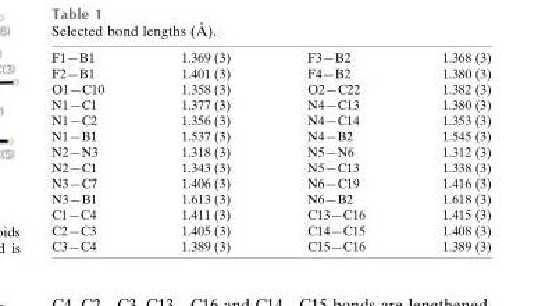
<table><tbody><tr><td>F1—B1</td><td>1.369 (3)</td><td>F3—B2</td><td>1.368 (3)</td></tr><tr><td>F2—B1</td><td>1.401 (3)</td><td>F4—B2</td><td>1.380 (3)</td></tr><tr><td>O1—C10</td><td>1.358 (3)</td><td>O2—C22</td><td>1.382 (3)</td></tr><tr><td>N1—C1</td><td>1.377 (3)</td><td>N4—C13</td><td>1.380 (3)</td></tr><tr><td>N1—C2</td><td>1.356 (3)</td><td>N4—C14</td><td>1.353 (3)</td></tr><tr><td>N1—B1</td><td>1.537 (3)</td><td>N4—B2</td><td>1.545 (3)</td></tr><tr><td>N2—N3</td><td>1.318 (3)</td><td>N5—N6</td><td>1.312 (3)</td></tr><tr><td>N2—C1</td><td>1.343 (3)</td><td>N5—C13</td><td>1.338 (3)</td></tr><tr><td>N3—C7</td><td>1.406 (3)</td><td>N6—C19</td><td>1.416 (3)</td></tr><tr><td>N3—B1</td><td>1.613 (3)</td><td>N6—B2</td><td>1.618 (3)</td></tr><tr><td>C1—C4</td><td>1.411 (3)</td><td>C13—C16</td><td>1.415 (3)</td></tr><tr><td>C2—C3</td><td>1.405 (3)</td><td>C14—C15</td><td>1.408 (3)</td></tr><tr><td>C3—C4</td><td>1.389 (3)</td><td>C15—C16</td><td>1.389 (3)</td></tr></tbody></table>